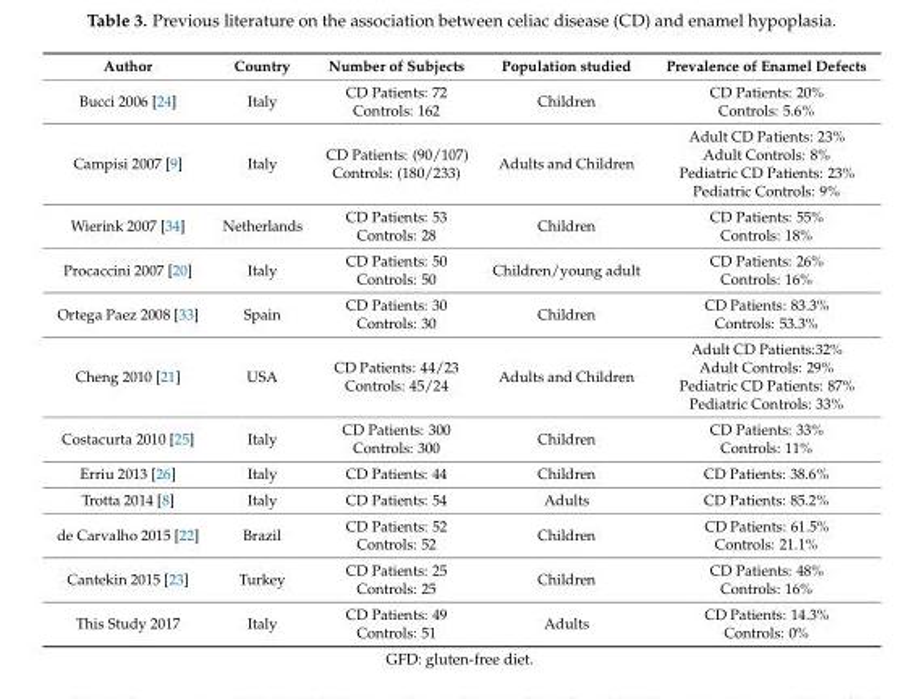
<table><thead><tr><td>Author</td><td>Country</td><td>Number of Subjects</td><td>Population studied</td><td>Prevalence of Enamel Defects</td></tr></thead><tbody><tr><td>Bucci 2006 [24]</td><td>Italy</td><td>CD Patients: 72 Controls: 162</td><td>Children</td><td>CD Patients: 20% Controls: 5.6%</td></tr><tr><td>Campisi 2007 [9]</td><td>Italy</td><td>CD Patients: (90/107) Controls: (180/233)</td><td>Adults and Children</td><td>Adult CD Patients: 23% Adult Controls: 8% Pediatric CD Patients: 23% Pediatric Controls: 9%</td></tr><tr><td>Wierink 2007 [34]</td><td>Netherlands</td><td>CD Patients: 53 Controls: 28</td><td>Children</td><td>CD Patients: 55% Controls: 18%</td></tr><tr><td>Procaccini 2007 [20]</td><td>Italy</td><td>CD Patients: 50 Controls: 50</td><td>Children/young adult</td><td>CD Patients: 26% Controls: 16%</td></tr><tr><td>Ortega Paez 2008 [33]</td><td>Spain</td><td>CD Patients: 30 Controls: 30</td><td>Children</td><td>CD Patients: 83.3% Controls: 53.3%</td></tr><tr><td>Cheng 2010 [21]</td><td>USA</td><td>CD Patients: 44/23 Controls: 45/24</td><td>Adults and Children</td><td>Adult CD Patients:32% Adult Controls: 29% Pediatric CD Patients: 87% Pediatric Controls: 33%</td></tr><tr><td>Costacurta 2010 [25]</td><td>Italy</td><td>CD Patients: 300 Controls: 300</td><td>Children</td><td>CD Patients: 33% Controls: 11%</td></tr><tr><td>Erriu 2013 [26]</td><td>Italy</td><td>CD Patients: 44</td><td>Children</td><td>CD Patients: 38.6%</td></tr><tr><td>Trotta 2014 [8]</td><td>Italy</td><td>CD Patients: 54</td><td>Adults</td><td>CD Patients: 85.2%</td></tr><tr><td>de Carvalho 2015 [22]</td><td>Brazil</td><td>CD Patients: 52 Controls: 52</td><td>Children</td><td>CD Patients: 61.5% Controls: 21.1%</td></tr><tr><td>Cantekin 2015 [23]</td><td>Turkey</td><td>CD Patients: 25 Controls: 25</td><td>Children</td><td>CD Patients: 48% Controls: 16%</td></tr><tr><td>This Study 2017</td><td>Italy</td><td>CD Patients: 49 Controls: 51</td><td>Adults</td><td>CD Patients: 14.3% Controls: 0%</td></tr></tbody></table>